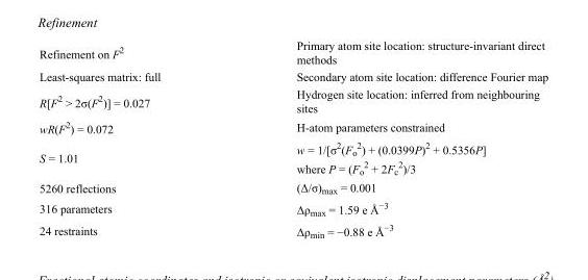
<table><tbody><tr><td>Refinement on F<sup>2</sup></td><td>Primary atom site location: structure-invariant direct methods</td></tr><tr><td>Least-squares matrix: full</td><td>Secondary atom site location: difference Fourier map</td></tr><tr><td>R[F<sup>2</sup> &gt; 2σ(F<sup>2</sup>)] = 0.027</td><td>Hydrogen site location: inferred from neighbouring sites</td></tr><tr><td>wR(F<sup>2</sup>) = 0.072</td><td>H-atom parameters constrained</td></tr><tr><td>S = 1.01</td><td>w = 1/[σ<sup>2</sup>(F<sub>o</sub> <sup>2</sup>) + (0.0399P)<sup>2</sup> + 0.5356P] where P = (F<sub>o</sub> <sup>2</sup> + 2F<sub>c</sub> <sup>2</sup>)/3</td></tr><tr><td>5260 reflections</td><td>(Δ/σ)<sub>max</sub> = 0.001</td></tr><tr><td>316 parameters</td><td>Δρ<sub>max</sub> = 1.59 e Å<sup>−3</sup></td></tr><tr><td>24 restraints</td><td>Δρ<sub>min</sub> = −0.88 e Å<sup>−3</sup></td></tr></tbody></table>